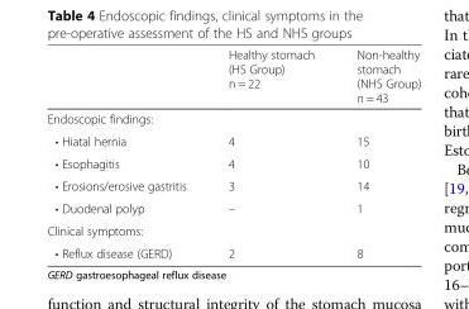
<table><thead><tr><td></td><td>Healthy stomach (HS Group) n = 22</td><td>Non-healthy stomach (NHS Group) n = 43</td></tr></thead><tbody><tr><td colspan="3">Endoscopic findings:</td></tr><tr><td>• Hiatal hernia</td><td>4</td><td>15</td></tr><tr><td>• Esophagitis</td><td>4</td><td>10</td></tr><tr><td>• Erosions/erosive gastritis</td><td>3</td><td>14</td></tr><tr><td>• Duodenal polyp</td><td>–</td><td>1</td></tr><tr><td colspan="3">Clinical symptoms:</td></tr><tr><td>• Reflux disease (GERD)</td><td>2</td><td>8</td></tr></tbody></table>